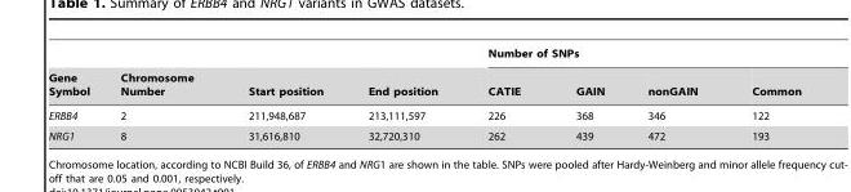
<table><thead><tr><td rowspan="2">Gene Symbol</td><td rowspan="2">Chromosome Number</td><td rowspan="2">Start position</td><td rowspan="2">End position</td><td colspan="4">Number of SNPs</td></tr><tr><td>CATIE</td><td>GAIN</td><td>nonGAIN</td><td>Common</td></tr></thead><tbody><tr><td>ERBB4</td><td>2</td><td>211,948,687</td><td>213,111,597</td><td>226</td><td>368</td><td>346</td><td>122</td></tr><tr><td>NRG1</td><td>8</td><td>31,616,810</td><td>32,720,310</td><td>262</td><td>439</td><td>472</td><td>193</td></tr></tbody></table>